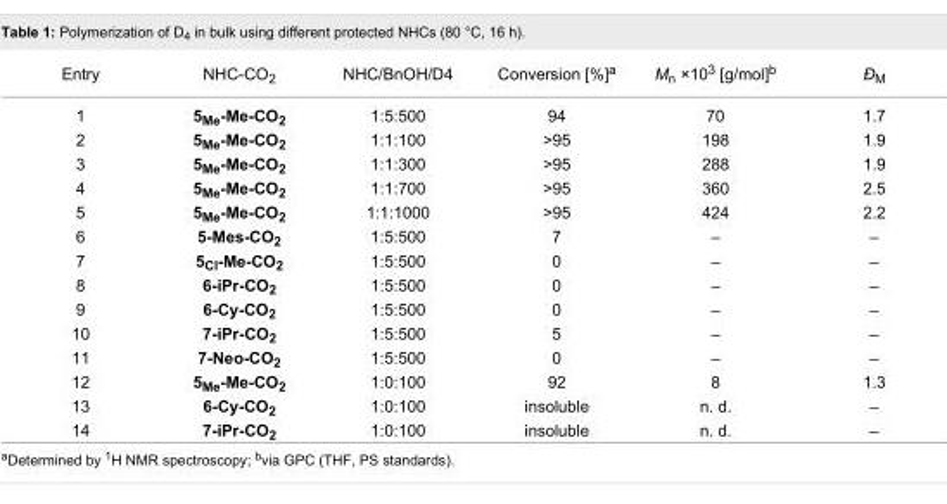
<table><tbody><tr><td>Entry</td><td>NHC-CO<sub>2</sub></td><td>NHC/BnOH/D4</td><td>Conversion [%]<sup>a</sup></td><td>M<sub>n</sub> ×10<sup>3</sup> [g/mol]<sup>b</sup></td><td>Ð<sub>M</sub></td></tr><tr><td>1</td><td>5<sub>Me</sub>-Me-CO<sub>2</sub></td><td>1:5:500</td><td>94</td><td>70</td><td>1.7</td></tr><tr><td>2</td><td>5<sub>Me</sub>-Me-CO<sub>2</sub></td><td>1:1:100</td><td>&gt;95</td><td>198</td><td>1.9</td></tr><tr><td>3</td><td>5<sub>Me</sub>-Me-CO<sub>2</sub></td><td>1:1:300</td><td>&gt;95</td><td>288</td><td>1.9</td></tr><tr><td>4</td><td>5<sub>Me</sub>-Me-CO<sub>2</sub></td><td>1:1:700</td><td>&gt;95</td><td>360</td><td>2.5</td></tr><tr><td>5</td><td>5<sub>Me</sub>-Me-CO<sub>2</sub></td><td>1:1:1000</td><td>&gt;95</td><td>424</td><td>2.2</td></tr><tr><td>6</td><td>5-Mes-CO<sub>2</sub></td><td>1:5:500</td><td>7</td><td>–</td><td>–</td></tr><tr><td>7</td><td>5<sub>Cl</sub>-Me-CO<sub>2</sub></td><td>1:5:500</td><td>0</td><td>–</td><td>–</td></tr><tr><td>8</td><td>6-iPr-CO<sub>2</sub></td><td>1:5:500</td><td>0</td><td>–</td><td>–</td></tr><tr><td>9</td><td>6-Cy-CO<sub>2</sub></td><td>1:5:500</td><td>0</td><td>–</td><td>–</td></tr><tr><td>10</td><td>7-iPr-CO<sub>2</sub></td><td>1:5:500</td><td>5</td><td>–</td><td>–</td></tr><tr><td>11</td><td>7-Neo-CO<sub>2</sub></td><td>1:5:500</td><td>0</td><td>–</td><td>–</td></tr><tr><td>12</td><td>5<sub>Me</sub>-Me-CO<sub>2</sub></td><td>1:0:100</td><td>92</td><td>8</td><td>1.3</td></tr><tr><td>13</td><td>6-Cy-CO<sub>2</sub></td><td>1:0:100</td><td>insoluble</td><td>n. d.</td><td>–</td></tr><tr><td>14</td><td>7-iPr-CO<sub>2</sub></td><td>1:0:100</td><td>insoluble</td><td>n. d.</td><td>–</td></tr></tbody></table>